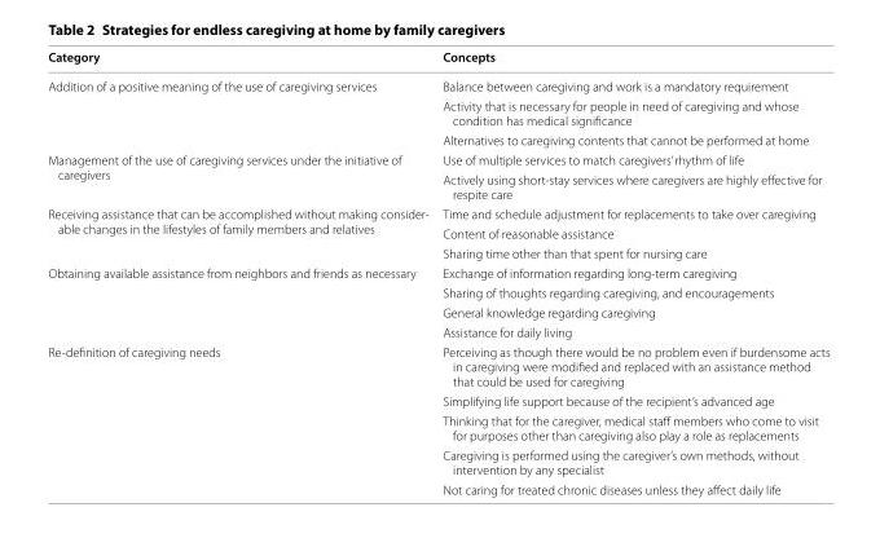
<table><thead><tr><td>Category</td><td>Concepts</td></tr></thead><tbody><tr><td rowspan="3">Addition of a positive meaning of the use of caregiving services</td><td>Balance between caregiving and work is a mandatory requirement</td></tr><tr><td>Activity that is necessary for people in need of caregiving and whose condition has medical significance</td></tr><tr><td>Alternatives to caregiving contents that cannot be performed at home</td></tr><tr><td rowspan="2">Management of the use of caregiving services under the initiative of caregivers</td><td>Use of multiple services to match caregivers’ rhythm of life</td></tr><tr><td>Actively using short-stay services where caregivers are highly effective for respite care</td></tr><tr><td rowspan="3">Receiving assistance that can be accomplished without making consider- able changes in the lifestyles of family members and relatives</td><td>Time and schedule adjustment for replacements to take over caregiving</td></tr><tr><td>Content of reasonable assistance</td></tr><tr><td>Sharing time other than that spent for nursing care</td></tr><tr><td rowspan="4">Obtaining available assistance from neighbors and friends as necessary</td><td>Exchange of information regarding long-term caregiving</td></tr><tr><td>Sharing of thoughts regarding caregiving, and encouragements</td></tr><tr><td>General knowledge regarding caregiving</td></tr><tr><td>Assistance for daily living</td></tr><tr><td rowspan="5">Re-definition of caregiving needs</td><td>Perceiving as though there would be no problem even if burdensome acts in caregiving were modified and replaced with an assistance method that could be used for caregiving</td></tr><tr><td>Simplifying life support because of the recipient’s advanced age</td></tr><tr><td>Thinking that for the caregiver, medical staff members who come to visit for purposes other than caregiving also play a role as replacements</td></tr><tr><td>Caregiving is performed using the caregiver’s own methods, without intervention by any specialist</td></tr><tr><td>Not caring for treated chronic diseases unless they affect daily life</td></tr></tbody></table>